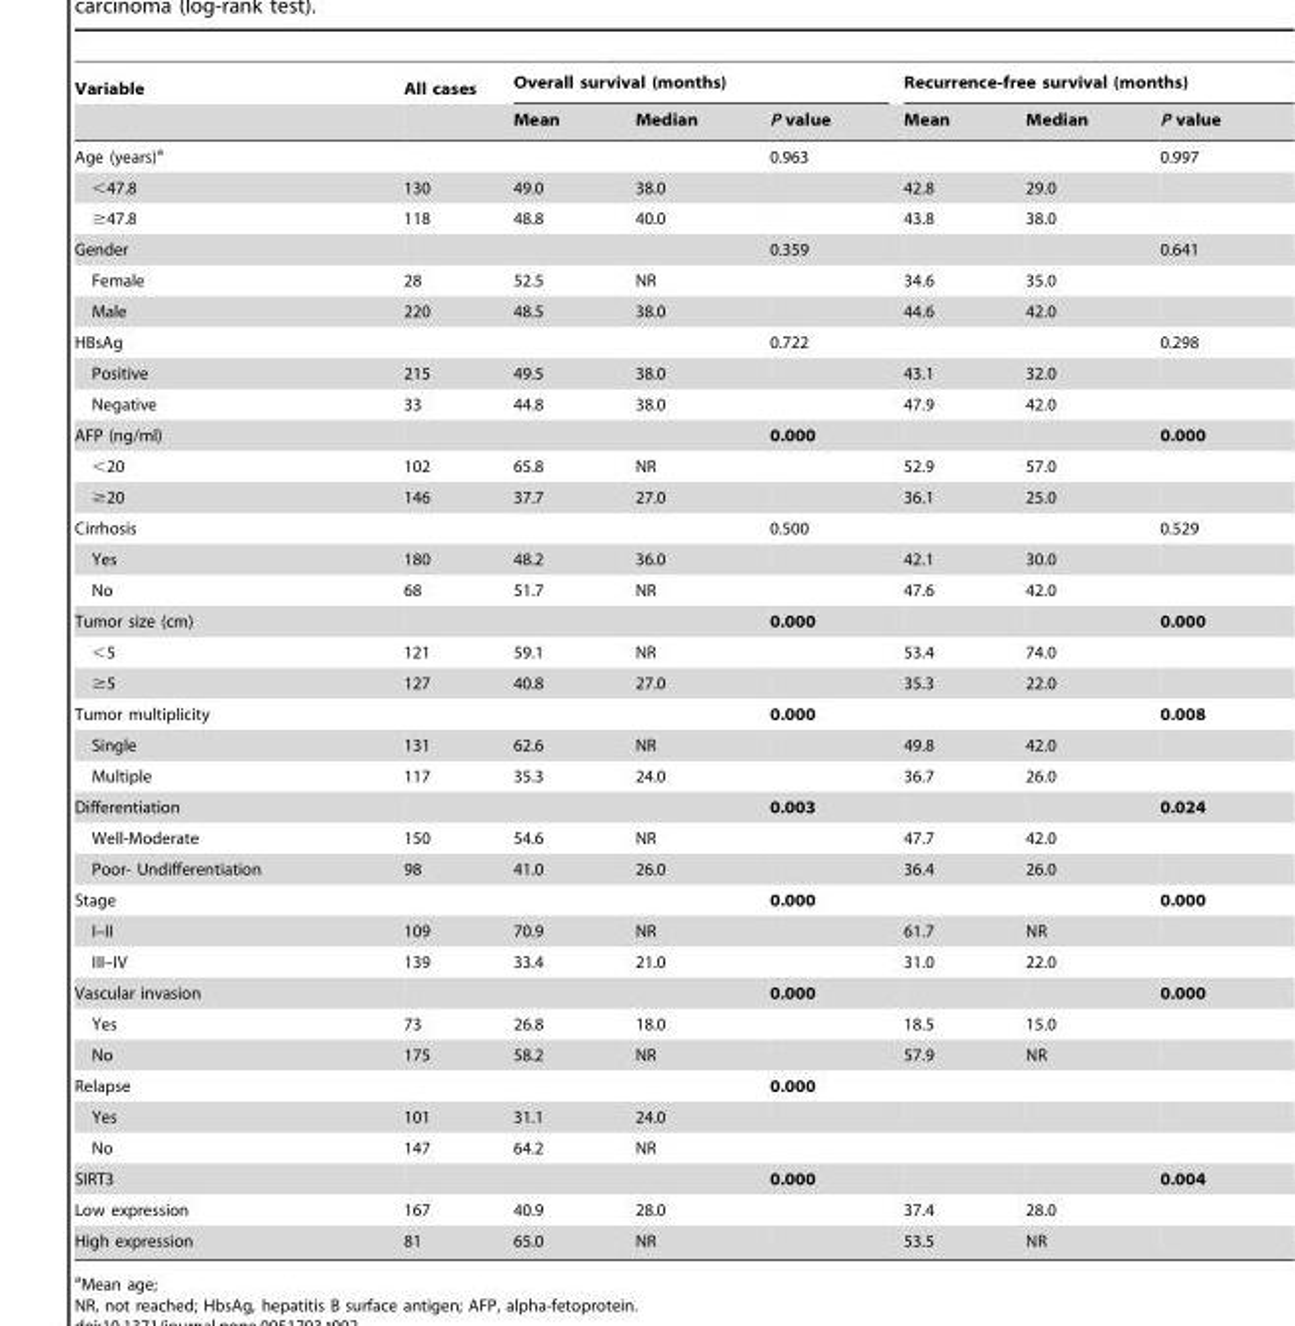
<table><thead><tr><td rowspan="2">Variable</td><td rowspan="2">All cases</td><td colspan="3">Overall survival (months)</td><td colspan="3">Recurrence-free survival (months)</td></tr><tr><td>Mean</td><td>Median</td><td>P value</td><td>Mean</td><td>Median</td><td>P value</td></tr></thead><tbody><tr><td>Age (years)<sup>a</sup></td><td></td><td></td><td></td><td>0.963</td><td></td><td></td><td>0.997</td></tr><tr><td>&lt;47.8</td><td>130</td><td>49.0</td><td>38.0</td><td></td><td>42.8</td><td>29.0</td><td></td></tr><tr><td>≥47.8</td><td>118</td><td>48.8</td><td>40.0</td><td></td><td>43.8</td><td>38.0</td><td></td></tr><tr><td>Gender</td><td></td><td></td><td></td><td>0.359</td><td></td><td></td><td>0.641</td></tr><tr><td>Female</td><td>28</td><td>52.5</td><td>NR</td><td></td><td>34.6</td><td>35.0</td><td></td></tr><tr><td>Male</td><td>220</td><td>48.5</td><td>38.0</td><td></td><td>44.6</td><td>42.0</td><td></td></tr><tr><td>HBsAg</td><td></td><td></td><td></td><td>0.722</td><td></td><td></td><td>0.298</td></tr><tr><td>Positive</td><td>215</td><td>49.5</td><td>38.0</td><td></td><td>43.1</td><td>32.0</td><td></td></tr><tr><td>Negative</td><td>33</td><td>44.8</td><td>38.0</td><td></td><td>47.9</td><td>42.0</td><td></td></tr><tr><td>AFP (ng/ml)</td><td></td><td></td><td></td><td>0.000</td><td></td><td></td><td>0.000</td></tr><tr><td>&lt;20</td><td>102</td><td>65.8</td><td>NR</td><td></td><td>52.9</td><td>57.0</td><td></td></tr><tr><td>≥20</td><td>146</td><td>37.7</td><td>27.0</td><td></td><td>36.1</td><td>25.0</td><td></td></tr><tr><td>Cirrhosis</td><td></td><td></td><td></td><td>0.500</td><td></td><td></td><td>0.529</td></tr><tr><td>Yes</td><td>180</td><td>48.2</td><td>36.0</td><td></td><td>42.1</td><td>30.0</td><td></td></tr><tr><td>No</td><td>68</td><td>51.7</td><td>NR</td><td></td><td>47.6</td><td>42.0</td><td></td></tr><tr><td>Tumor size (cm)</td><td></td><td></td><td></td><td>0.000</td><td></td><td></td><td>0.000</td></tr><tr><td>&lt;5</td><td>121</td><td>59.1</td><td>NR</td><td></td><td>53.4</td><td>74.0</td><td></td></tr><tr><td>≥5</td><td>127</td><td>40.8</td><td>27.0</td><td></td><td>35.3</td><td>22.0</td><td></td></tr><tr><td>Tumor multiplicity</td><td></td><td></td><td></td><td>0.000</td><td></td><td></td><td>0.008</td></tr><tr><td>Single</td><td>131</td><td>62.6</td><td>NR</td><td></td><td>49.8</td><td>42.0</td><td></td></tr><tr><td>Multiple</td><td>117</td><td>35.3</td><td>24.0</td><td></td><td>36.7</td><td>26.0</td><td></td></tr><tr><td>Differentiation</td><td></td><td></td><td></td><td>0.003</td><td></td><td></td><td>0.024</td></tr><tr><td>Well-Moderate</td><td>150</td><td>54.6</td><td>NR</td><td></td><td>47.7</td><td>42.0</td><td></td></tr><tr><td>Poor- Undifferentiation</td><td>98</td><td>41.0</td><td>26.0</td><td></td><td>36.4</td><td>26.0</td><td></td></tr><tr><td>Stage</td><td></td><td></td><td></td><td>0.000</td><td></td><td></td><td>0.000</td></tr><tr><td>I–II</td><td>109</td><td>70.9</td><td>NR</td><td></td><td>61.7</td><td>NR</td><td></td></tr><tr><td>III–IV</td><td>139</td><td>33.4</td><td>21.0</td><td></td><td>31.0</td><td>22.0</td><td></td></tr><tr><td>Vascular invasion</td><td></td><td></td><td></td><td>0.000</td><td></td><td></td><td>0.000</td></tr><tr><td>Yes</td><td>73</td><td>26.8</td><td>18.0</td><td></td><td>18.5</td><td>15.0</td><td></td></tr><tr><td>No</td><td>175</td><td>58.2</td><td>NR</td><td></td><td>57.9</td><td>NR</td><td></td></tr><tr><td>Relapse</td><td></td><td></td><td></td><td>0.000</td><td></td><td></td><td></td></tr><tr><td>Yes</td><td>101</td><td>31.1</td><td>24.0</td><td></td><td></td><td></td><td></td></tr><tr><td>No</td><td>147</td><td>64.2</td><td>NR</td><td></td><td></td><td></td><td></td></tr><tr><td>SIRT3</td><td></td><td></td><td></td><td>0.000</td><td></td><td></td><td>0.004</td></tr><tr><td>Low expression</td><td>167</td><td>40.9</td><td>28.0</td><td></td><td>37.4</td><td>28.0</td><td></td></tr><tr><td>High expression</td><td>81</td><td>65.0</td><td>NR</td><td></td><td>53.5</td><td>NR</td><td></td></tr></tbody></table>